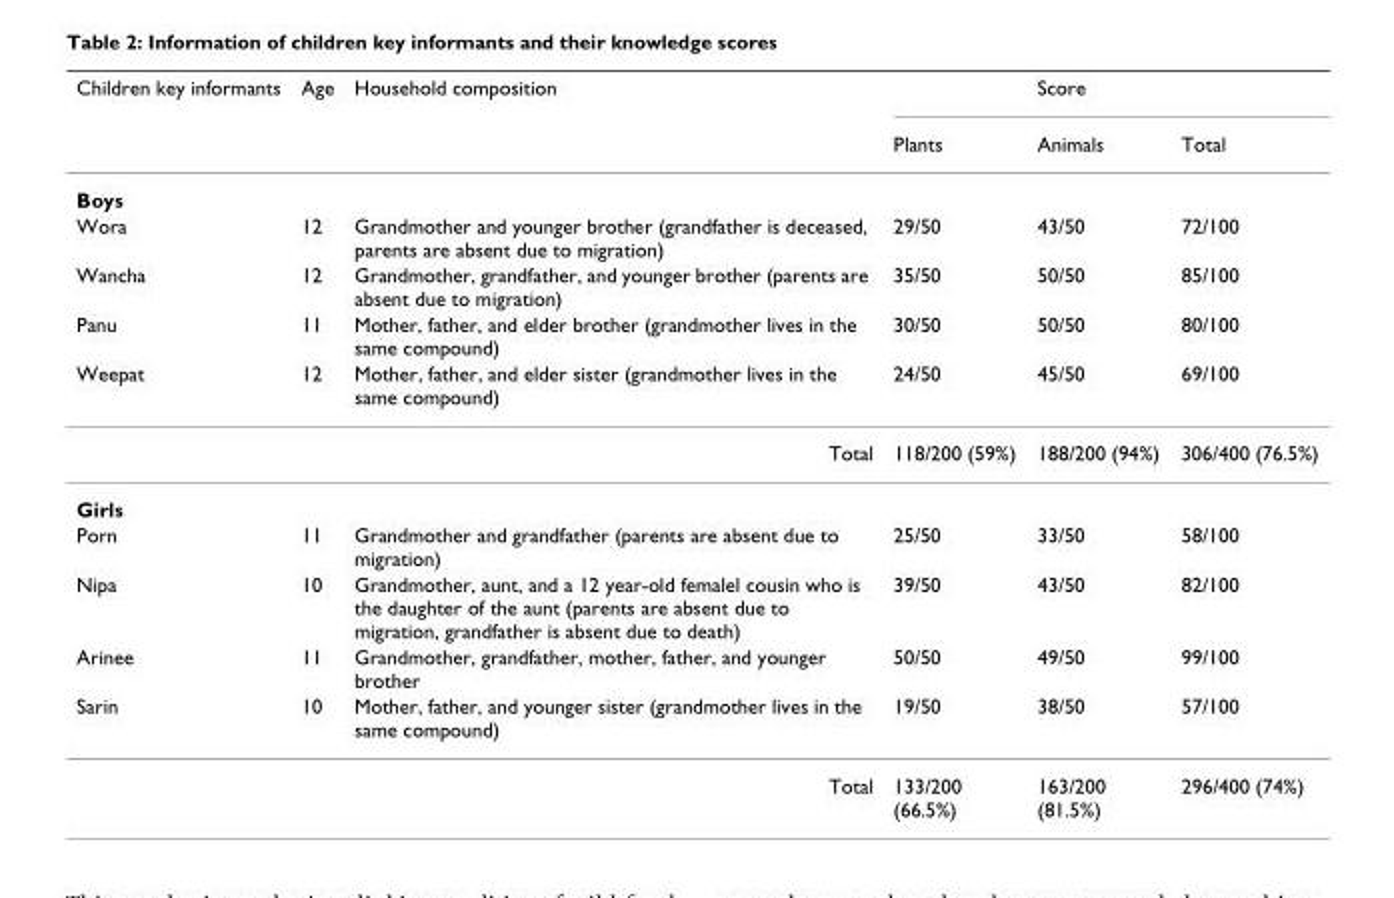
<table><thead><tr><td rowspan="2">Children key informants</td><td rowspan="2">Age</td><td rowspan="2">Household composition</td><td rowspan="2">Plants</td><td rowspan="2">Score Animals</td><td rowspan="2">Total</td></tr><tr></tr></thead><tbody><tr><td colspan="6">Boys</td></tr><tr><td>Wora</td><td>12</td><td>Grandmother and younger brother (grandfather is deceased, parents are absent due to migration)</td><td>29/50</td><td>43/50</td><td>72/100</td></tr><tr><td>Wancha</td><td>12</td><td>Grandmother, grandfather, and younger brother (parents are absent due to migration)</td><td>35/50</td><td>50/50</td><td>85/100</td></tr><tr><td>Panu</td><td>11</td><td>Mother, father, and elder brother (grandmother lives in the same compound)</td><td>30/50</td><td>50/50</td><td>80/100</td></tr><tr><td>Weepat</td><td>12</td><td>Mother, father, and elder sister (grandmother lives in the same compound)</td><td>24/50</td><td>45/50</td><td>69/100</td></tr><tr><td colspan="3">Total</td><td>118/200 (59%)</td><td>188/200 (94%)</td><td>306/400 (76.5%)</td></tr><tr><td colspan="6">Girls</td></tr><tr><td>Porn</td><td>11</td><td>Grandmother and grandfather (parents are absent due to migration)</td><td>25/50</td><td>33/50</td><td>58/100</td></tr><tr><td>Nipa</td><td>10</td><td>Grandmother, aunt, and a 12 year-old femalel cousin who is the daughter of the aunt (parents are absent due to migration, grandfather is absent due to death)</td><td>39/50</td><td>43/50</td><td>82/100</td></tr><tr><td>Arinee</td><td>11</td><td>Grandmother, grandfather, mother, father, and younger brother</td><td>50/50</td><td>49/50</td><td>99/100</td></tr><tr><td>Sarin</td><td>10</td><td>Mother, father, and younger sister (grandmother lives in the same compound)</td><td>19/50</td><td>38/50</td><td>57/100</td></tr><tr><td colspan="3">Total</td><td>133/200 (66.5%)</td><td>163/200 (81.5%)</td><td>296/400 (74%)</td></tr></tbody></table>